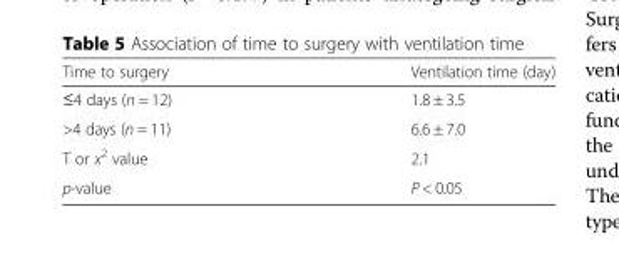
<table><thead><tr><td>Time to surgery</td><td>Ventilation time (day)</td></tr></thead><tbody><tr><td>≤4 days (n = 12)</td><td>1.8 ± 3.5</td></tr><tr><td>&gt;4 days (n = 11)</td><td>6.6 ± 7.0</td></tr><tr><td>T or x<sup>2</sup> value</td><td>2.1</td></tr><tr><td>p-value</td><td>P &lt; 0.05</td></tr></tbody></table>